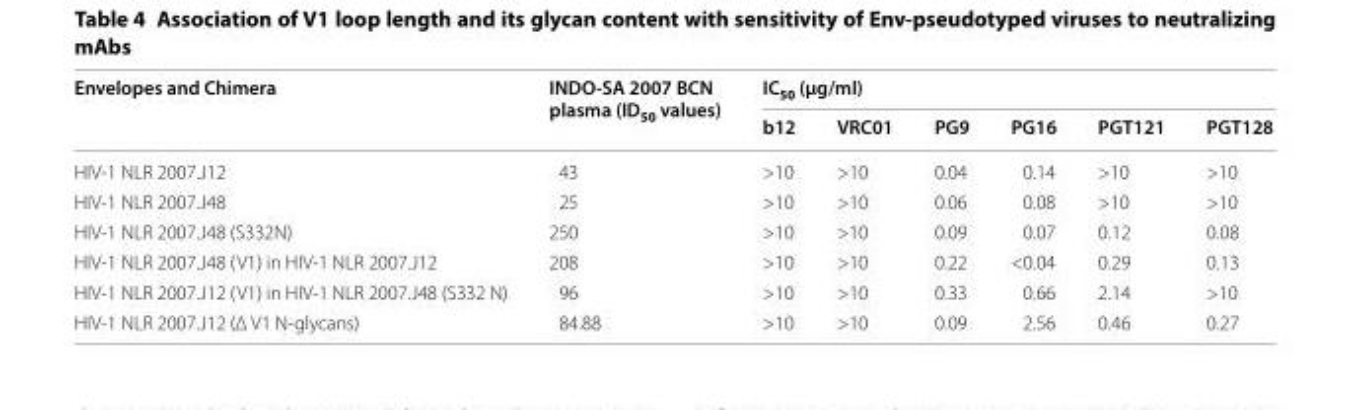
<table><thead><tr><td rowspan="2">Envelopes and Chimera</td><td rowspan="2">INDO-SA 2007 BCN plasma (ID<sub>50</sub> values)</td><td colspan="6">IC<sub>50</sub> (µg/ml)</td></tr><tr><td>b12</td><td>VRC01</td><td>PG9</td><td>PG16</td><td>PGT121</td><td>PGT128</td></tr></thead><tbody><tr><td>HIV-1 NLR 2007.J12</td><td>43</td><td>&gt;10</td><td>&gt;10</td><td>0.04</td><td>0.14</td><td>&gt;10</td><td>&gt;10</td></tr><tr><td>HIV-1 NLR 2007.J48</td><td>25</td><td>&gt;10</td><td>&gt;10</td><td>0.06</td><td>0.08</td><td>&gt;10</td><td>&gt;10</td></tr><tr><td>HIV-1 NLR 2007.J48 (S332N)</td><td>250</td><td>&gt;10</td><td>&gt;10</td><td>0.09</td><td>0.07</td><td>0.12</td><td>0.08</td></tr><tr><td>HIV-1 NLR 2007.J48 (V1) in HIV-1 NLR 2007.J12</td><td>208</td><td>&gt;10</td><td>&gt;10</td><td>0.22</td><td>&lt;0.04</td><td>0.29</td><td>0.13</td></tr><tr><td>HIV-1 NLR 2007.J12 (V1) in HIV-1 NLR 2007.J48 (S332 N)</td><td>96</td><td>&gt;10</td><td>&gt;10</td><td>0.33</td><td>0.66</td><td>2.14</td><td>&gt;10</td></tr><tr><td>HIV-1 NLR 2007.J12 (Δ V1 N-glycans)</td><td>84.88</td><td>&gt;10</td><td>&gt;10</td><td>0.09</td><td>2.56</td><td>0.46</td><td>0.27</td></tr></tbody></table>